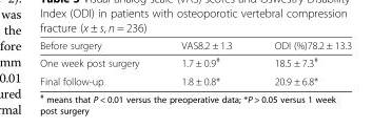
<table><thead><tr><td>Before surgery</td><td>VAS8.2 ± 1.3</td><td>ODI (%)78.2 ± 13.3</td></tr></thead><tbody><tr><td>One week post surgery</td><td>1.7 ± 0.9<sup>#</sup></td><td>18.5 ± 7.3<sup>#</sup></td></tr><tr><td>Final follow-up</td><td>1.8 ± 0.8*</td><td>20.9 ± 6.8*</td></tr></tbody></table>